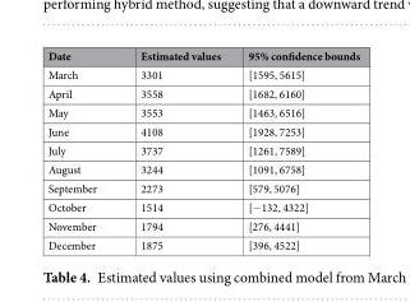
<table><thead><tr><td>Date</td><td>Estimated values</td><td>95% confidence bounds</td></tr></thead><tbody><tr><td>March</td><td>3301</td><td>[1595, 5615]</td></tr><tr><td>April</td><td>3558</td><td>[1682, 6160]</td></tr><tr><td>May</td><td>3553</td><td>[1463, 6516]</td></tr><tr><td>June</td><td>4108</td><td>[1928, 7253]</td></tr><tr><td>July</td><td>3737</td><td>[1261, 7589]</td></tr><tr><td>August</td><td>3244</td><td>[1091, 6758]</td></tr><tr><td>September</td><td>2273</td><td>[579, 5076]</td></tr><tr><td>October</td><td>1514</td><td>[−132, 4322]</td></tr><tr><td>November</td><td>1794</td><td>[276, 4441]</td></tr><tr><td>December</td><td>1875</td><td>[396, 4522]</td></tr></tbody></table>